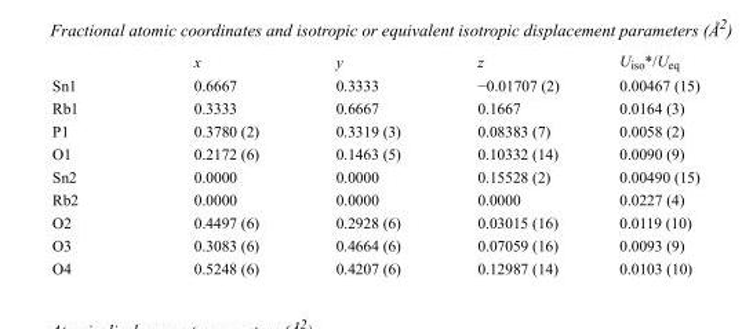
<table><thead><tr><td></td><td>x</td><td>y</td><td>z</td><td>U<sub>iso</sub>*/U<sub>eq</sub></td></tr></thead><tbody><tr><td>Sn1</td><td>0.6667</td><td>0.3333</td><td>−0.01707 (2)</td><td>0.00467 (15)</td></tr><tr><td>Rb1</td><td>0.3333</td><td>0.6667</td><td>0.1667</td><td>0.0164 (3)</td></tr><tr><td>P1</td><td>0.3780 (2)</td><td>0.3319 (3)</td><td>0.08383 (7)</td><td>0.0058 (2)</td></tr><tr><td>O1</td><td>0.2172 (6)</td><td>0.1463 (5)</td><td>0.10332 (14)</td><td>0.0090 (9)</td></tr><tr><td>Sn2</td><td>0.0000</td><td>0.0000</td><td>0.15528 (2)</td><td>0.00490 (15)</td></tr><tr><td>Rb2</td><td>0.0000</td><td>0.0000</td><td>0.0000</td><td>0.0227 (4)</td></tr><tr><td>O2</td><td>0.4497 (6)</td><td>0.2928 (6)</td><td>0.03015 (16)</td><td>0.0119 (10)</td></tr><tr><td>O3</td><td>0.3083 (6)</td><td>0.4664 (6)</td><td>0.07059 (16)</td><td>0.0093 (9)</td></tr><tr><td>O4</td><td>0.5248 (6)</td><td>0.4207 (6)</td><td>0.12987 (14)</td><td>0.0103 (10)</td></tr></tbody></table>